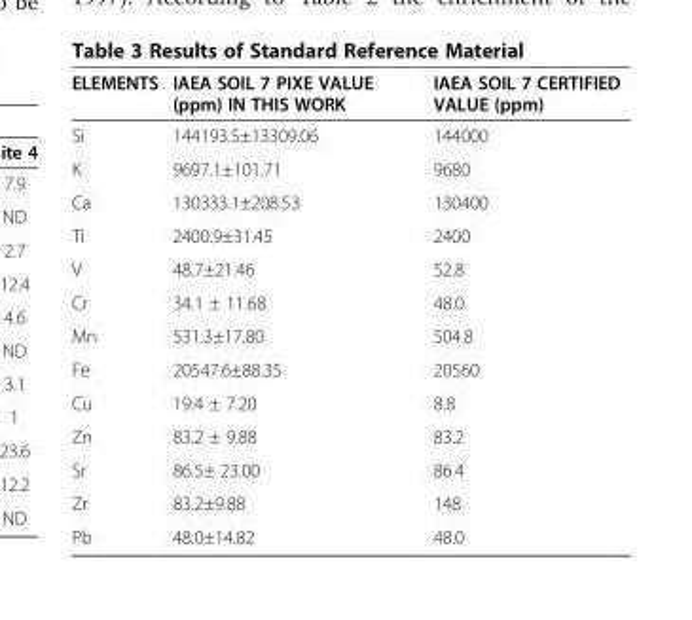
<table><thead><tr><td>ELEMENTS</td><td>IAEA SOIL 7 PIXE VALUE (ppm) IN THIS WORK</td><td>IAEA SOIL 7 CERTIFIED VALUE (ppm)</td></tr></thead><tbody><tr><td>Si</td><td>144193.5±13309.06</td><td>144000</td></tr><tr><td>K</td><td>9697.1±101.71</td><td>9680</td></tr><tr><td>Ca</td><td>130333.1±208.53</td><td>130400</td></tr><tr><td>Ti</td><td>2400.9±31.45</td><td>2400</td></tr><tr><td>V</td><td>48.7±21.46</td><td>52.8</td></tr><tr><td>Cr</td><td>34.1 ± 11.68</td><td>48.0</td></tr><tr><td>Mn</td><td>531.3±17.80</td><td>504.8</td></tr><tr><td>Fe</td><td>20547.6±88.35</td><td>20560</td></tr><tr><td>Cu</td><td>19.4 ± 7.20</td><td>8.8</td></tr><tr><td>Zn</td><td>83.2 ± 9.88</td><td>83.2</td></tr><tr><td>Sr</td><td>86.5± 23.00</td><td>86.4</td></tr><tr><td>Zr</td><td>83.2±9.88</td><td>148</td></tr><tr><td>Pb</td><td>48.0±14.82</td><td>48.0</td></tr></tbody></table>